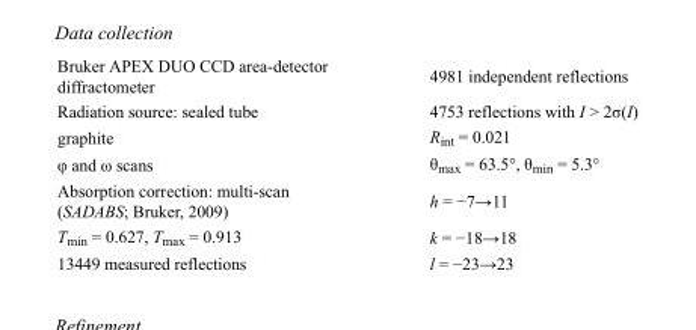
<table><tbody><tr><td>Bruker APEX DUO CCD area-detector diffractometer</td><td>4981 independent reflections</td></tr><tr><td>Radiation source: sealed tube</td><td>4753 reflections with I &gt; 2σ(I)</td></tr><tr><td>graphite</td><td>R<sub>int</sub> = 0.021</td></tr><tr><td>φ and ω scans</td><td>θ<sub>max</sub> = 63.5°, θ<sub>min</sub> = 5.3°</td></tr><tr><td>Absorption correction: multi-scan (SADABS; Bruker, 2009)</td><td>h = −7→11</td></tr><tr><td>T<sub>min</sub> = 0.627, T<sub>max</sub> = 0.913</td><td>k = −18→18</td></tr><tr><td>13449 measured reflections</td><td>l = −23→23</td></tr></tbody></table>